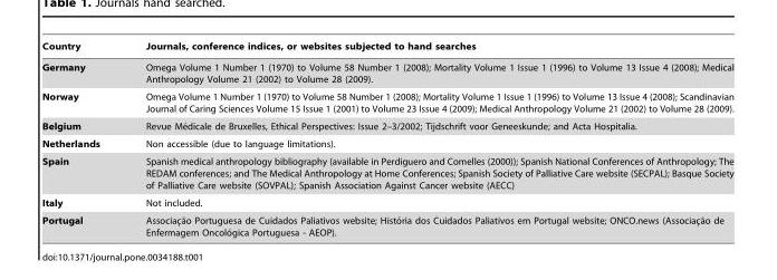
<table><thead><tr><td>Country</td><td>Journals, conference indices, or websites subjected to hand searches</td></tr></thead><tbody><tr><td>Germany</td><td>Omega Volume 1 Number 1 (1970) to Volume 58 Number 1 (2008); Mortality Volume 1 Issue 1 (1996) to Volume 13 Issue 4 (2008); Medical Anthropology Volume 21 (2002) to Volume 28 (2009).</td></tr><tr><td>Norway</td><td>Omega Volume 1 Number 1 (1970) to Volume 58 Number 1 (2008); Mortality Volume 1 Issue 1 (1996) to Volume 13 Issue 4 (2008); Scandinavian Journal of Caring Sciences Volume 15 Issue 1 (2001) to Volume 23 Issue 4 (2009); Medical Anthropology Volume 21 (2002) to Volume 28 (2009).</td></tr><tr><td>Belgium</td><td>Revue Me´dicale de Bruxelles, Ethical Perspectives: Issue 2–3/2002; Tijdschrift voor Geneeskunde; and Acta Hospitalia.</td></tr><tr><td>Netherlands</td><td>Non accessible (due to language limitations).</td></tr><tr><td>Spain</td><td>Spanish medical anthropology bibliography (available in Perdiguero and Comelles (2000)); Spanish National Conferences of Anthropology; The REDAM conferences; and The Medical Anthropology at Home Conferences; Spanish Society of Palliative Care website (SECPAL); Basque Society of Palliative Care website (SOVPAL); Spanish Association Against Cancer website (AECC)</td></tr><tr><td>Italy</td><td>Not included.</td></tr><tr><td>Portugal</td><td>Associac¸a˜o Portuguesa de Cuidados Paliativos website; Histo´ria dos Cuidados Paliativos em Portugal website; ONCO.news (Associac¸a˜o de Enfermagem Oncolo´gica Portuguesa - AEOP).</td></tr></tbody></table>